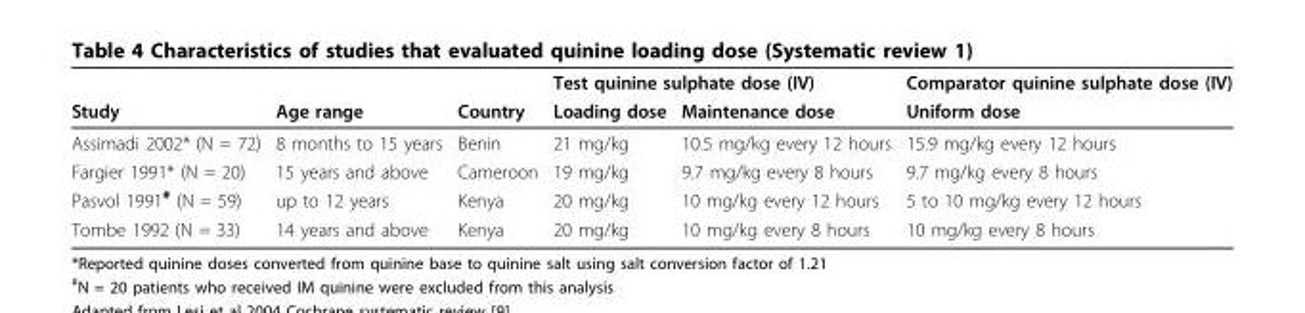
<table><thead><tr><td rowspan="2">Study</td><td rowspan="2">Age range</td><td rowspan="2">Country</td><td colspan="2">Test quinine sulphate dose (IV)</td><td rowspan="2">Comparator quinine sulphate dose (IV) Uniform dose</td></tr><tr><td>Loading dose</td><td>Maintenance dose</td></tr></thead><tbody><tr><td>Assimadi 2002* (N = 72)</td><td>8 months to 15 years</td><td>Benin</td><td>21 mg/kg</td><td>10.5 mg/kg every 12 hours</td><td>15.9 mg/kg every 12 hours</td></tr><tr><td>Fargier 1991* (N = 20)</td><td>15 years and above</td><td>Cameroon</td><td>19 mg/kg</td><td>9.7 mg/kg every 8 hours</td><td>9.7 mg/kg every 8 hours</td></tr><tr><td>Pasvol 1991<sup>#</sup> (N = 59)</td><td>up to 12 years</td><td>Kenya</td><td>20 mg/kg</td><td>10 mg/kg every 12 hours</td><td>5 to 10 mg/kg every 12 hours</td></tr><tr><td>Tombe 1992 (N = 33)</td><td>14 years and above</td><td>Kenya</td><td>20 mg/kg</td><td>10 mg/kg every 8 hours</td><td>10 mg/kg every 8 hours</td></tr></tbody></table>